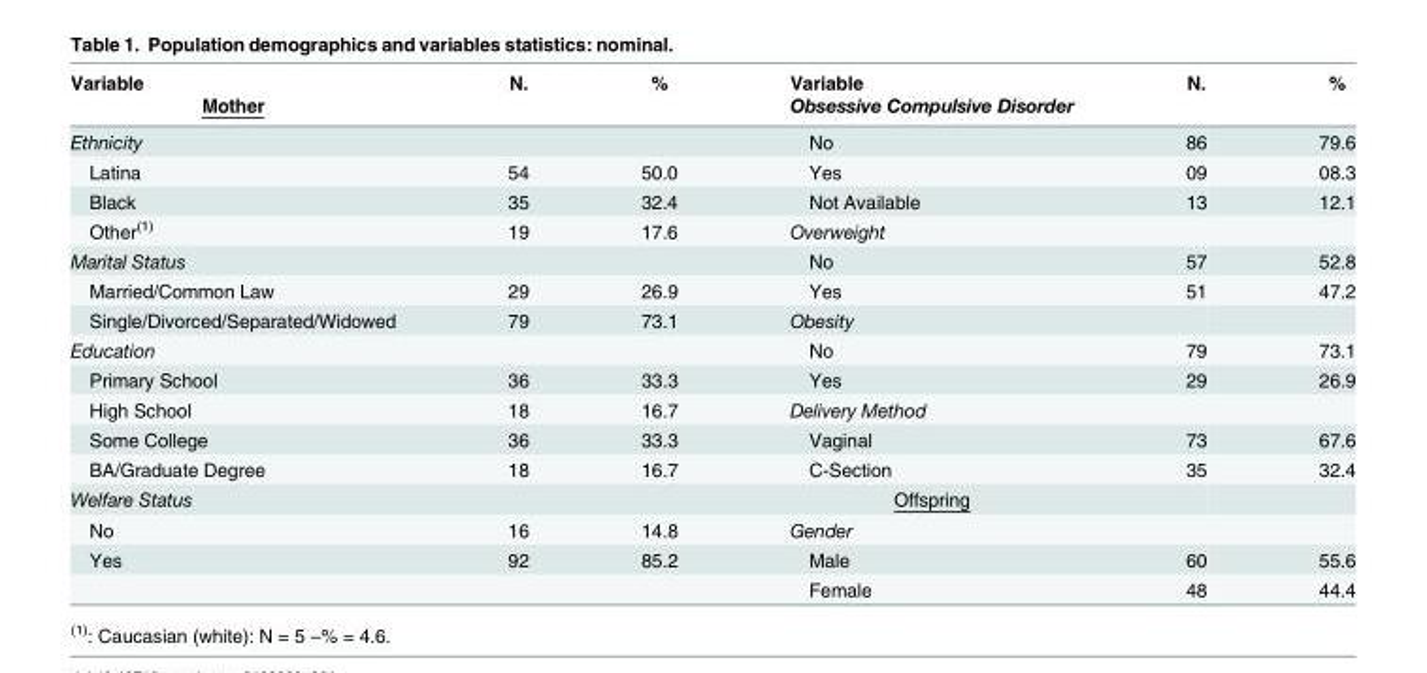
<table><thead><tr><td rowspan="2">Variable Mother</td><td rowspan="2">N.</td><td rowspan="2">%</td><td rowspan="2">Variable Obsessive Compulsive Disorder</td><td rowspan="2">N.</td><td rowspan="2">%</td></tr><tr></tr></thead><tbody><tr><td>Ethnicity</td><td></td><td></td><td>No</td><td>86</td><td>79.6</td></tr><tr><td>Latina</td><td>54</td><td>50.0</td><td>Yes</td><td>09</td><td>08.3</td></tr><tr><td>Black</td><td>35</td><td>32.4</td><td>Not Available</td><td>13</td><td>12.1</td></tr><tr><td>Other<sup>(1)</sup></td><td>19</td><td>17.6</td><td>Overweight</td><td></td><td></td></tr><tr><td>Marital Status</td><td></td><td></td><td>No</td><td>57</td><td>52.8</td></tr><tr><td>Married/Common Law</td><td>29</td><td>26.9</td><td>Yes</td><td>51</td><td>47.2</td></tr><tr><td>Single/Divorced/Separated/Widowed</td><td>79</td><td>73.1</td><td>Obesity</td><td></td><td></td></tr><tr><td>Education</td><td></td><td></td><td>No</td><td>79</td><td>73.1</td></tr><tr><td>Primary School</td><td>36</td><td>33.3</td><td>Yes</td><td>29</td><td>26.9</td></tr><tr><td>High School</td><td>18</td><td>16.7</td><td>Delivery Method</td><td></td><td></td></tr><tr><td>Some College</td><td>36</td><td>33.3</td><td>Vaginal</td><td>73</td><td>67.6</td></tr><tr><td>BA/Graduate Degree</td><td>18</td><td>16.7</td><td>C-Section</td><td>35</td><td>32.4</td></tr><tr><td>Welfare Status</td><td></td><td></td><td>Offspring</td><td></td><td></td></tr><tr><td>No</td><td>16</td><td>14.8</td><td>Gender</td><td></td><td></td></tr><tr><td rowspan="2">Yes</td><td>92</td><td>85.2</td><td>Male</td><td>60</td><td>55.6</td></tr><tr><td></td><td></td><td>Female</td><td>48</td><td>44.4</td></tr></tbody></table>